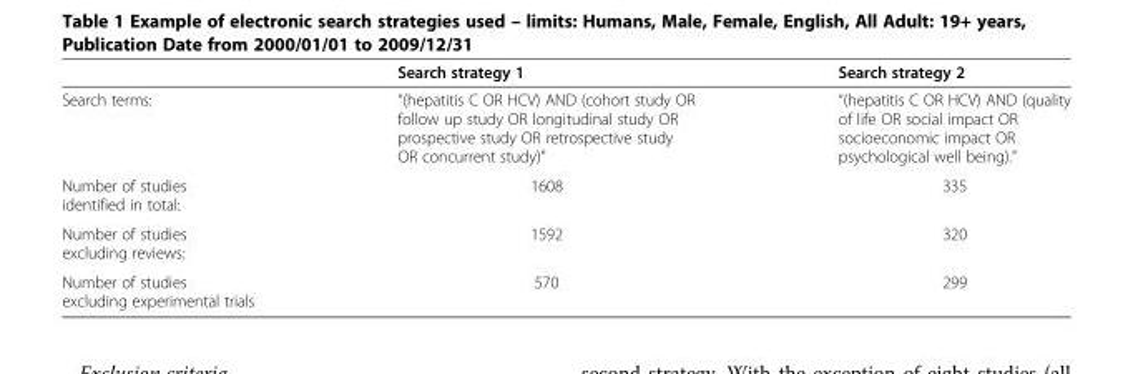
<table><thead><tr><td></td><td>Search strategy 1</td><td>Search strategy 2</td></tr></thead><tbody><tr><td>Search terms:</td><td>“(hepatitis C OR HCV) AND (cohort study OR follow up study OR longitudinal study OR prospective study OR retrospective study OR concurrent study)”</td><td>“(hepatitis C OR HCV) AND (quality of life OR social impact OR socioeconomic impact OR psychological well being).”</td></tr><tr><td>Number of studies identified in total:</td><td>1608</td><td>335</td></tr><tr><td>Number of studies excluding reviews:</td><td>1592</td><td>320</td></tr><tr><td>Number of studies excluding experimental trials</td><td>570</td><td>299</td></tr></tbody></table>